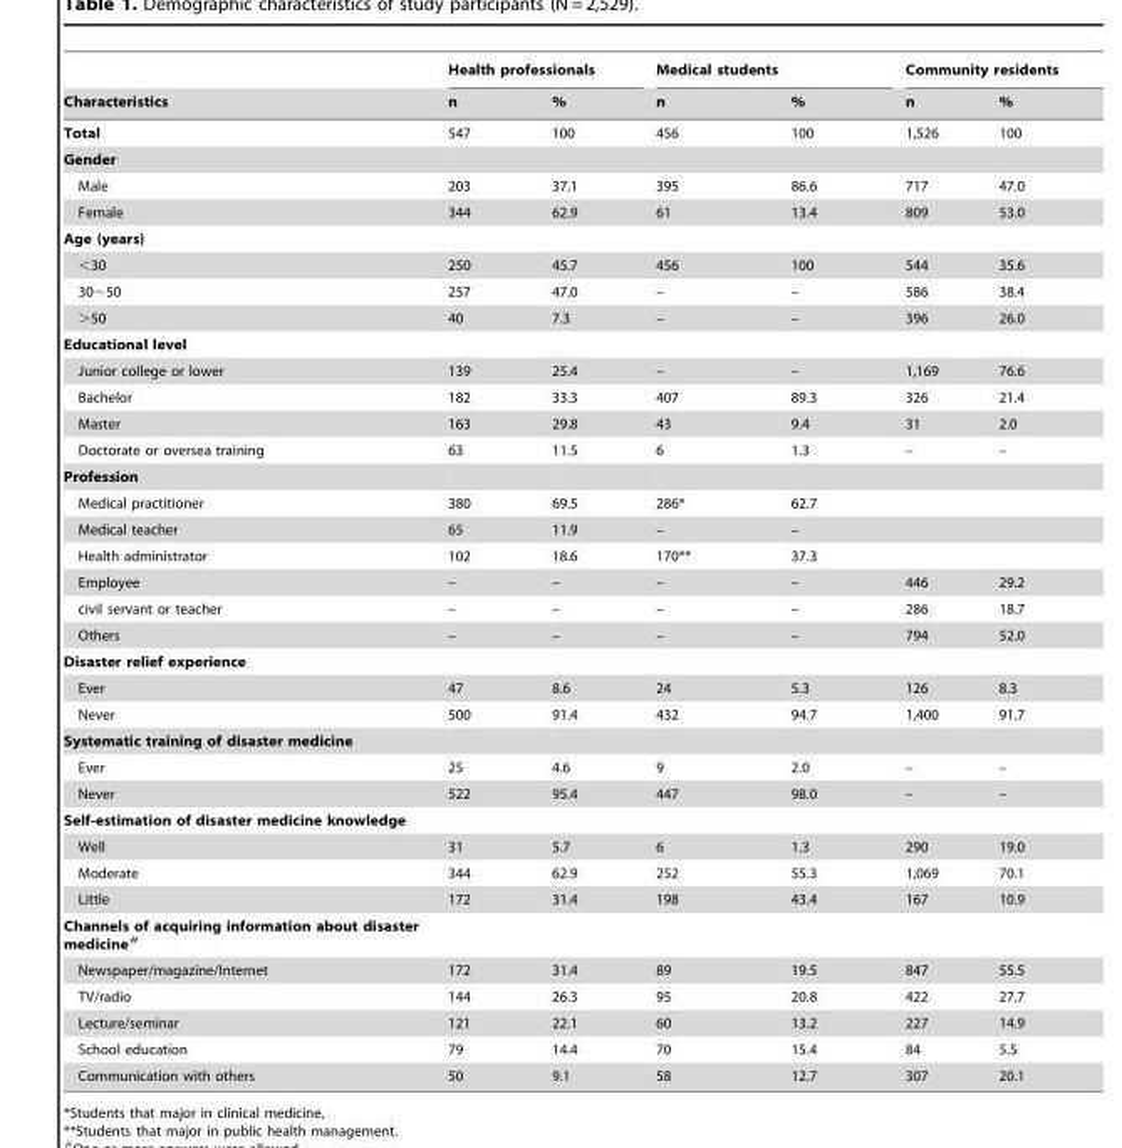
<table><thead><tr><td rowspan="2">Characteristics</td><td colspan="2">Health professionals</td><td colspan="2">Medical students</td><td colspan="2">Community residents</td></tr><tr><td>n</td><td>%</td><td>n</td><td>%</td><td>n</td><td>%</td></tr></thead><tbody><tr><td>Total</td><td>547</td><td>100</td><td>456</td><td>100</td><td>1,526</td><td>100</td></tr><tr><td colspan="7">Gender</td></tr><tr><td>Male</td><td>203</td><td>37.1</td><td>395</td><td>86.6</td><td>717</td><td>47.0</td></tr><tr><td>Female</td><td>344</td><td>62.9</td><td>61</td><td>13.4</td><td>809</td><td>53.0</td></tr><tr><td colspan="7">Age (years)</td></tr><tr><td>&lt;30</td><td>250</td><td>45.7</td><td>456</td><td>100</td><td>544</td><td>35.6</td></tr><tr><td>30∼50</td><td>257</td><td>47.0</td><td>–</td><td>–</td><td>586</td><td>38.4</td></tr><tr><td>&gt;50</td><td>40</td><td>7.3</td><td>–</td><td>–</td><td>396</td><td>26.0</td></tr><tr><td colspan="7">Educational level</td></tr><tr><td>Junior college or lower</td><td>139</td><td>25.4</td><td>–</td><td>–</td><td>1,169</td><td>76.6</td></tr><tr><td>Bachelor</td><td>182</td><td>33.3</td><td>407</td><td>89.3</td><td>326</td><td>21.4</td></tr><tr><td>Master</td><td>163</td><td>29.8</td><td>43</td><td>9.4</td><td>31</td><td>2.0</td></tr><tr><td>Doctorate or oversea training</td><td>63</td><td>11.5</td><td>6</td><td>1.3</td><td>–</td><td>–</td></tr><tr><td colspan="7">Profession</td></tr><tr><td>Medical practitioner</td><td>380</td><td>69.5</td><td>286*</td><td>62.7</td><td></td><td></td></tr><tr><td>Medical teacher</td><td>65</td><td>11.9</td><td>–</td><td>–</td><td></td><td></td></tr><tr><td>Health administrator</td><td>102</td><td>18.6</td><td>170**</td><td>37.3</td><td></td><td></td></tr><tr><td>Employee</td><td>–</td><td>–</td><td>–</td><td>–</td><td>446</td><td>29.2</td></tr><tr><td>civil servant or teacher</td><td>–</td><td>–</td><td>–</td><td>–</td><td>286</td><td>18.7</td></tr><tr><td>Others</td><td>–</td><td>–</td><td>–</td><td>–</td><td>794</td><td>52.0</td></tr><tr><td colspan="7">Disaster relief experience</td></tr><tr><td>Ever</td><td>47</td><td>8.6</td><td>24</td><td>5.3</td><td>126</td><td>8.3</td></tr><tr><td>Never</td><td>500</td><td>91.4</td><td>432</td><td>94.7</td><td>1,400</td><td>91.7</td></tr><tr><td colspan="7">Systematic training of disaster medicine</td></tr><tr><td>Ever</td><td>25</td><td>4.6</td><td>9</td><td>2.0</td><td>–</td><td>–</td></tr><tr><td>Never</td><td>522</td><td>95.4</td><td>447</td><td>98.0</td><td>–</td><td>–</td></tr><tr><td colspan="7">Self-estimation of disaster medicine knowledge</td></tr><tr><td>Well</td><td>31</td><td>5.7</td><td>6</td><td>1.3</td><td>290</td><td>19.0</td></tr><tr><td>Moderate</td><td>344</td><td>62.9</td><td>252</td><td>55.3</td><td>1,069</td><td>70.1</td></tr><tr><td>Little</td><td>172</td><td>31.4</td><td>198</td><td>43.4</td><td>167</td><td>10.9</td></tr><tr><td colspan="7">Channels of acquiring information about disaster medicine#</td></tr><tr><td>Newspaper/magazine/Internet</td><td>172</td><td>31.4</td><td>89</td><td>19.5</td><td>847</td><td>55.5</td></tr><tr><td>TV/radio</td><td>144</td><td>26.3</td><td>95</td><td>20.8</td><td>422</td><td>27.7</td></tr><tr><td>Lecture/seminar</td><td>121</td><td>22.1</td><td>60</td><td>13.2</td><td>227</td><td>14.9</td></tr><tr><td>School education</td><td>79</td><td>14.4</td><td>70</td><td>15.4</td><td>84</td><td>5.5</td></tr><tr><td>Communication with others</td><td>50</td><td>9.1</td><td>58</td><td>12.7</td><td>307</td><td>20.1</td></tr></tbody></table>